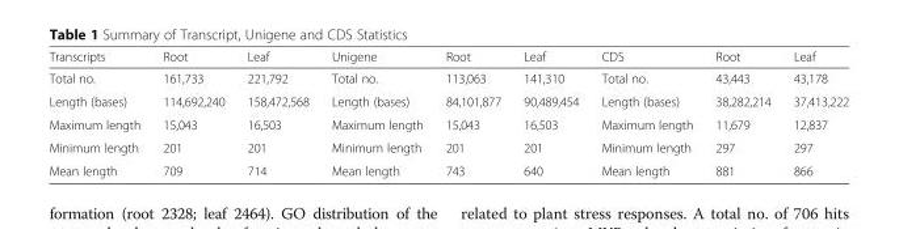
<table><thead><tr><td>Transcripts</td><td>Root</td><td>Leaf</td><td>Unigene</td><td>Root</td><td>Leaf</td><td>CDS</td><td>Root</td><td>Leaf</td></tr></thead><tbody><tr><td>Total no.</td><td>161,733</td><td>221,792</td><td>Total no.</td><td>113,063</td><td>141,310</td><td>Total no.</td><td>43,443</td><td>43,178</td></tr><tr><td>Length (bases)</td><td>114,692,240</td><td>158,472,568</td><td>Length (bases)</td><td>84,101,877</td><td>90,489,454</td><td>Length (bases)</td><td>38,282,214</td><td>37,413,222</td></tr><tr><td>Maximum length</td><td>15,043</td><td>16,503</td><td>Maximum length</td><td>15,043</td><td>16,503</td><td>Maximum length</td><td>11,679</td><td>12,837</td></tr><tr><td>Minimum length</td><td>201</td><td>201</td><td>Minimum length</td><td>201</td><td>201</td><td>Minimum length</td><td>297</td><td>297</td></tr><tr><td>Mean length</td><td>709</td><td>714</td><td>Mean length</td><td>743</td><td>640</td><td>Mean length</td><td>881</td><td>866</td></tr></tbody></table>